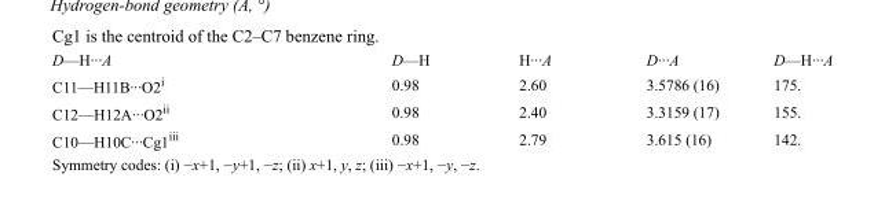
<table><tbody><tr><td>D—H···A</td><td>D—H</td><td>H···A</td><td>D···A</td><td>D—H···A</td></tr><tr><td>C11—H11B···O2<sup>i</sup></td><td>0.98</td><td>2.60</td><td>3.5786 (16)</td><td>175.</td></tr><tr><td>C12—H12A···O2<sup>ii</sup></td><td>0.98</td><td>2.40</td><td>3.3159 (17)</td><td>155.</td></tr><tr><td>C10—H10C···Cg1<sup>iii</sup></td><td>0.98</td><td>2.79</td><td>3.615 (16)</td><td>142.</td></tr></tbody></table>